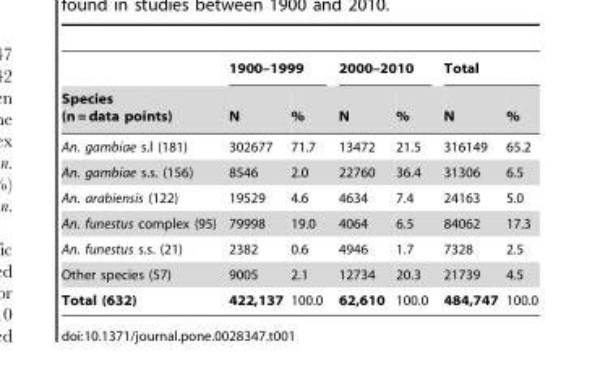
<table><thead><tr><td rowspan="2">Species (n = data points)</td><td colspan="2">1900–1999</td><td colspan="2">2000–2010</td><td colspan="2">Total</td></tr><tr><td>N</td><td>%</td><td>N</td><td>%</td><td>N</td><td>%</td></tr></thead><tbody><tr><td>An. gambiae s.l (181)</td><td>302677</td><td>71.7</td><td>13472</td><td>21.5</td><td>316149</td><td>65.2</td></tr><tr><td>An. gambiae s.s. (156)</td><td>8546</td><td>2.0</td><td>22760</td><td>36.4</td><td>31306</td><td>6.5</td></tr><tr><td>An. arabiensis (122)</td><td>19529</td><td>4.6</td><td>4634</td><td>7.4</td><td>24163</td><td>5.0</td></tr><tr><td>An. funestus complex (95)</td><td>79998</td><td>19.0</td><td>4064</td><td>6.5</td><td>84062</td><td>17.3</td></tr><tr><td>An. funestus s.s. (21)</td><td>2382</td><td>0.6</td><td>4946</td><td>1.7</td><td>7328</td><td>2.5</td></tr><tr><td>Other species (57)</td><td>9005</td><td>2.1</td><td>12734</td><td>20.3</td><td>21739</td><td>4.5</td></tr><tr><td>Total (632)</td><td>422,137</td><td>100.0</td><td>62,610</td><td>100.0</td><td>484,747</td><td>100.0</td></tr></tbody></table>